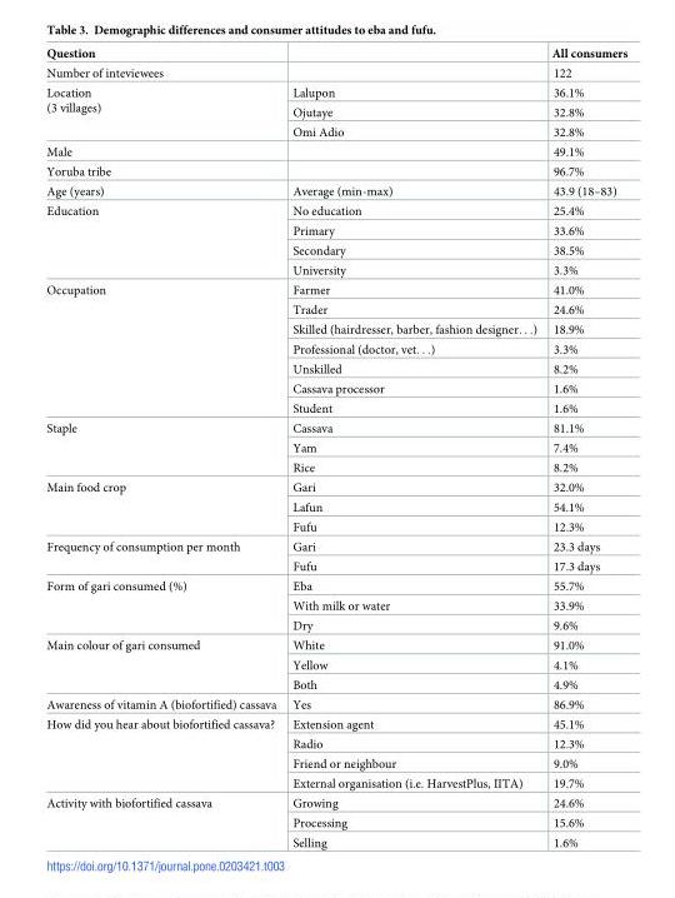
<table><thead><tr><td>Question</td><td></td><td>All consumers</td></tr></thead><tbody><tr><td>Number of inteviewees</td><td></td><td>122</td></tr><tr><td rowspan="3">Location (3 villages)</td><td>Lalupon</td><td>36.1%</td></tr><tr><td>Ojutaye</td><td>32.8%</td></tr><tr><td>Omi Adio</td><td>32.8%</td></tr><tr><td>Male</td><td></td><td>49.1%</td></tr><tr><td>Yoruba tribe</td><td></td><td>96.7%</td></tr><tr><td>Age (years)</td><td>Average (min-max)</td><td>43.9 (18–83)</td></tr><tr><td rowspan="4">Education</td><td>No education</td><td>25.4%</td></tr><tr><td>Primary</td><td>33.6%</td></tr><tr><td>Secondary</td><td>38.5%</td></tr><tr><td>University</td><td>3.3%</td></tr><tr><td rowspan="7">Occupation</td><td>Farmer</td><td>41.0%</td></tr><tr><td>Trader</td><td>24.6%</td></tr><tr><td>Skilled (hairdresser, barber, fashion designer. . .)</td><td>18.9%</td></tr><tr><td>Professional (doctor, vet. . .)</td><td>3.3%</td></tr><tr><td>Unskilled</td><td>8.2%</td></tr><tr><td>Cassava processor</td><td>1.6%</td></tr><tr><td>Student</td><td>1.6%</td></tr><tr><td rowspan="3">Staple</td><td>Cassava</td><td>81.1%</td></tr><tr><td>Yam</td><td>7.4%</td></tr><tr><td>Rice</td><td>8.2%</td></tr><tr><td rowspan="3">Main food crop</td><td>Gari</td><td>32.0%</td></tr><tr><td>Lafun</td><td>54.1%</td></tr><tr><td>Fufu</td><td>12.3%</td></tr><tr><td rowspan="2">Frequency of consumption per month</td><td>Gari</td><td>23.3 days</td></tr><tr><td>Fufu</td><td>17.3 days</td></tr><tr><td rowspan="3">Form of gari consumed (%)</td><td>Eba</td><td>55.7%</td></tr><tr><td>With milk or water</td><td>33.9%</td></tr><tr><td>Dry</td><td>9.6%</td></tr><tr><td rowspan="3">Main colour of gari consumed</td><td>White</td><td>91.0%</td></tr><tr><td>Yellow</td><td>4.1%</td></tr><tr><td>Both</td><td>4.9%</td></tr><tr><td>Awareness of vitamin A (biofortified) cassava</td><td>Yes</td><td>86.9%</td></tr><tr><td rowspan="4">How did you hear about biofortified cassava?</td><td>Extension agent</td><td>45.1%</td></tr><tr><td>Radio</td><td>12.3%</td></tr><tr><td>Friend or neighbour</td><td>9.0%</td></tr><tr><td>External organisation (i.e. HarvestPlus, IITA)</td><td>19.7%</td></tr><tr><td rowspan="3">Activity with biofortified cassava</td><td>Growing</td><td>24.6%</td></tr><tr><td>Processing</td><td>15.6%</td></tr><tr><td>Selling</td><td>1.6%</td></tr></tbody></table>